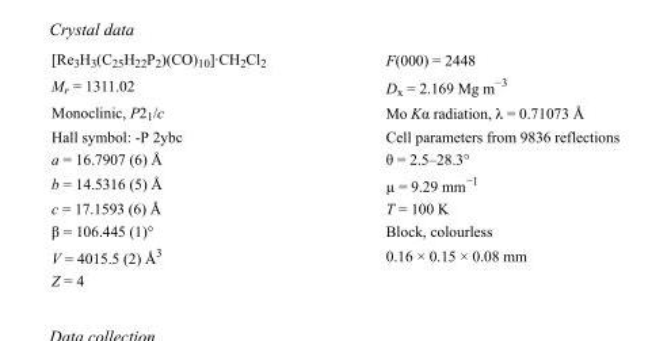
<table><tbody><tr><td>[Re<sub>3</sub>H<sub>3</sub>(C<sub>25</sub>H<sub>22</sub>P<sub>2</sub>)(CO)<sub>10</sub>]·CH<sub>2</sub>Cl<sub>2</sub></td><td>F(000) = 2448</td></tr><tr><td>M<sub>r</sub> = 1311.02</td><td>D<sub>x</sub> = 2.169 Mg m<sup>−3</sup></td></tr><tr><td>Monoclinic, P2<sub>1</sub>/c</td><td>Mo Kα radiation, λ = 0.71073 Å</td></tr><tr><td>Hall symbol: -P 2ybc</td><td>Cell parameters from 9836 reflections</td></tr><tr><td>a = 16.7907 (6) Å</td><td>θ = 2.5–28.3°</td></tr><tr><td>b = 14.5316 (5) Å</td><td>µ = 9.29 mm<sup>−1</sup></td></tr><tr><td>c = 17.1593 (6) Å</td><td>T = 100 K</td></tr><tr><td>β = 106.445 (1)°</td><td>Block, colourless</td></tr><tr><td>V = 4015.5 (2) Å<sup>3</sup></td><td>0.16 × 0.15 × 0.08 mm</td></tr><tr><td>Z = 4</td><td></td></tr></tbody></table>